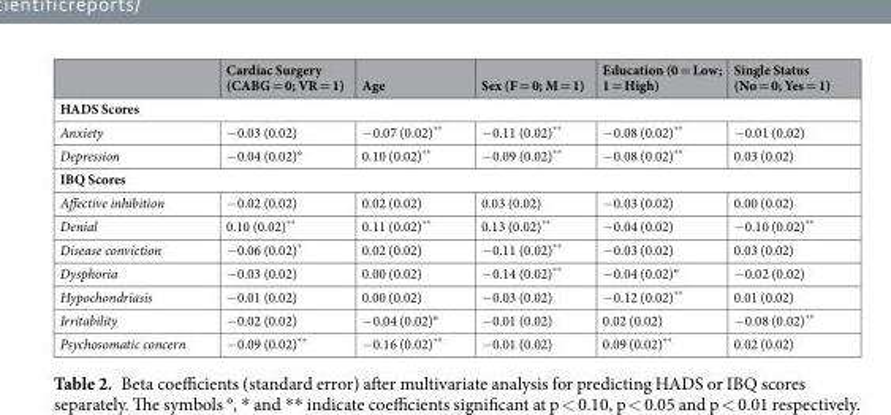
<table><thead><tr><td></td><td>Cardiac Surgery (CABG = 0; VR = 1)</td><td>Age</td><td>Sex (F = 0; M = 1)</td><td>Education (0 = Low; 1 = High)</td><td>Single Status (No = 0; Yes = 1)</td></tr></thead><tbody><tr><td colspan="6">HADS Scores</td></tr><tr><td>Anxiety</td><td>−0.03 (0.02)</td><td>−0.07 (0.02)**</td><td>−0.11 (0.02)**</td><td>−0.08 (0.02)**</td><td>−0.01 (0.02)</td></tr><tr><td>Depression</td><td>−0.04 (0.02)°</td><td>0.10 (0.02)**</td><td>−0.09 (0.02)**</td><td>−0.08 (0.02)**</td><td>0.03 (0.02)</td></tr><tr><td colspan="6">IBQ Scores</td></tr><tr><td>Affective inhibition</td><td>−0.02 (0.02)</td><td>0.02 (0.02)</td><td>0.03 (0.02)</td><td>−0.03 (0.02)</td><td>0.00 (0.02)</td></tr><tr><td>Denial</td><td>0.10 (0.02)**</td><td>0.11 (0.02)**</td><td>0.13 (0.02)**</td><td>−0.04 (0.02)</td><td>−0.10 (0.02)**</td></tr><tr><td>Disease conviction</td><td>−0.06 (0.02)*</td><td>0.02 (0.02)</td><td>−0.11 (0.02)**</td><td>−0.03 (0.02)</td><td>0.03 (0.02)</td></tr><tr><td>Dysphoria</td><td>−0.03 (0.02)</td><td>0.00 (0.02)</td><td>−0.14 (0.02)**</td><td>−0.04 (0.02)°</td><td>−0.02 (0.02)</td></tr><tr><td>Hypochondriasis</td><td>−0.01 (0.02)</td><td>0.00 (0.02)</td><td>−0.03 (0.02)</td><td>−0.12 (0.02)**</td><td>0.01 (0.02)</td></tr><tr><td>Irritability</td><td>−0.02 (0.02)</td><td>−0.04 (0.02)°</td><td>−0.01 (0.02)</td><td>0.02 (0.02)</td><td>−0.08 (0.02)**</td></tr><tr><td>Psychosomatic concern</td><td>−0.09 (0.02)**</td><td>−0.16 (0.02)**</td><td>−0.01 (0.02)</td><td>0.09 (0.02)**</td><td>0.02 (0.02)</td></tr></tbody></table>